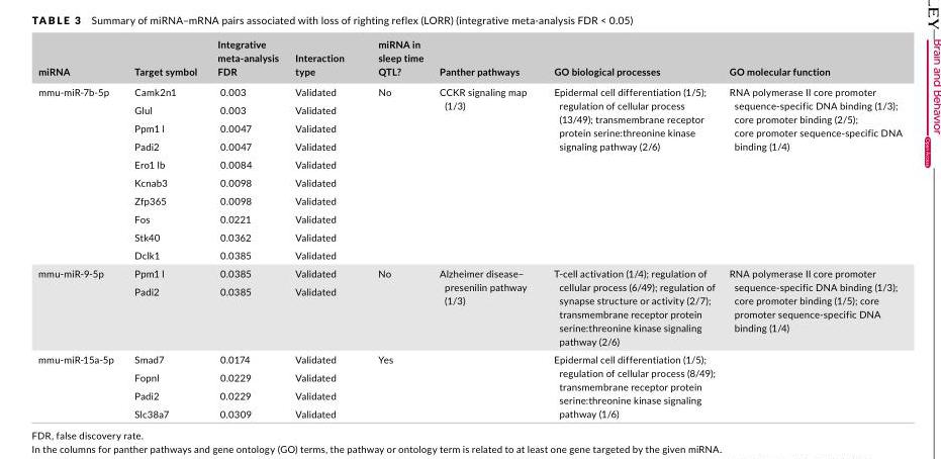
<table><thead><tr><td>miRNA</td><td>Targetsymbol</td><td>Integrative meta-analysis FDR</td><td>Interaction type</td><td>miRNAin sleeptime QTL?</td><td>Pantherpathways</td><td>GObiologicalprocesses</td><td>GOmolecularfunction</td></tr></thead><tbody><tr><td rowspan="10">mmu- miR- 7b- 5p</td><td>Camk2n1</td><td>0.003</td><td>Validated</td><td rowspan="10">No</td><td rowspan="10">CCKR signaling map (1/3)</td><td rowspan="10">Epidermal cell differentiation (1/5); regulation of cellular process (13/49); transmembrane receptor protein serine:threonine kinase signaling pathway (2/6)</td><td rowspan="10">RNA polymerase II core promoter sequence- specific DNA binding (1/3); core promoter binding (2/5); core promoter sequence- specific DNA binding (1/4)</td></tr><tr><td>Glul</td><td>0.003</td><td>Validated</td></tr><tr><td>Ppm1 l</td><td>0.0047</td><td>Validated</td></tr><tr><td>Padi2</td><td>0.0047</td><td>Validated</td></tr><tr><td>Ero1 lb</td><td>0.0084</td><td>Validated</td></tr><tr><td>Kcnab3</td><td>0.0098</td><td>Validated</td></tr><tr><td>Zfp365</td><td>0.0098</td><td>Validated</td></tr><tr><td>Fos</td><td>0.0221</td><td>Validated</td></tr><tr><td>Stk40</td><td>0.0362</td><td>Validated</td></tr><tr><td>Dclk1</td><td>0.0385</td><td>Validated</td></tr><tr><td rowspan="2">mmu- miR- 9- 5p</td><td>Ppm1 l</td><td>0.0385</td><td>Validated</td><td rowspan="2">No</td><td rowspan="2">Alzheimer disease– presenilin pathway (1/3)</td><td rowspan="2">T- cell activation (1/4); regulation of cellular process (6/49); regulation of synapse structure or activity (2/7); transmembrane receptor protein serine:threonine kinase signaling pathway (2/6)</td><td rowspan="2">RNA polymerase II core promoter sequence- specific DNA binding (1/3); core promoter binding (1/5); core promoter sequence- specific DNA binding (1/4)</td></tr><tr><td>Padi2</td><td>0.0385</td><td>Validated</td></tr><tr><td rowspan="4">mmu- miR- 15a- 5p</td><td>Smad7</td><td>0.0174</td><td>Validated</td><td rowspan="4">Yes</td><td rowspan="4"></td><td rowspan="4">Epidermal cell differentiation (1/5); regulation of cellular process (8/49); transmembrane receptor protein serine:threonine kinase signaling pathway (1/6)</td><td rowspan="4"></td></tr><tr><td>Fopnl</td><td>0.0229</td><td>Validated</td></tr><tr><td>Padi2</td><td>0.0229</td><td>Validated</td></tr><tr><td>Slc38a7</td><td>0.0309</td><td>Validated</td></tr></tbody></table>